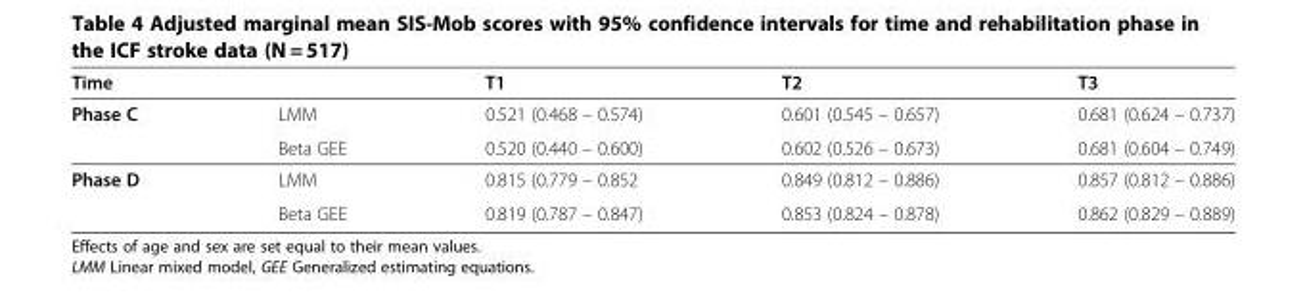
<table><thead><tr><td>Time</td><td></td><td>T1</td><td>T2</td><td>T3</td></tr></thead><tbody><tr><td rowspan="2">Phase C</td><td>LMM</td><td>0.521 (0.468 – 0.574)</td><td>0.601 (0.545 – 0.657)</td><td>0.681 (0.624 – 0.737)</td></tr><tr><td>Beta GEE</td><td>0.520 (0.440 – 0.600)</td><td>0.602 (0.526 – 0.673)</td><td>0.681 (0.604 – 0.749)</td></tr><tr><td rowspan="2">Phase D</td><td>LMM</td><td>0.815 (0.779 – 0.852</td><td>0.849 (0.812 – 0.886)</td><td>0.857 (0.812 – 0.886)</td></tr><tr><td>Beta GEE</td><td>0.819 (0.787 – 0.847)</td><td>0.853 (0.824 – 0.878)</td><td>0.862 (0.829 – 0.889)</td></tr></tbody></table>